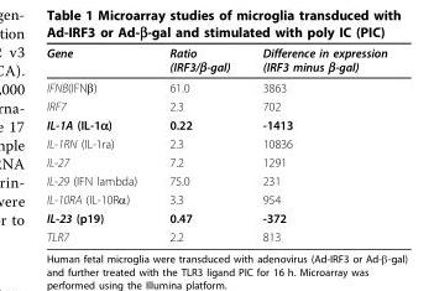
<table><thead><tr><td>Gene</td><td>Ratio (IRF3/β-gal)</td><td>Difference in expression (IRF3 minus β-gal)</td></tr></thead><tbody><tr><td>IFNB(IFNβ)</td><td>61.0</td><td>3863</td></tr><tr><td>IRF7</td><td>2.3</td><td>702</td></tr><tr><td>IL-1A (IL-1α)</td><td>0.22</td><td>-1413</td></tr><tr><td>IL-1RN (IL-1ra)</td><td>2.3</td><td>10836</td></tr><tr><td>IL-27</td><td>7.2</td><td>1291</td></tr><tr><td>IL-29 (IFN lambda)</td><td>75.0</td><td>231</td></tr><tr><td>IL-10RA (IL-10Rα)</td><td>3.3</td><td>954</td></tr><tr><td>IL-23 (p19)</td><td>0.47</td><td>-372</td></tr><tr><td>TLR7</td><td>2.2</td><td>813</td></tr></tbody></table>